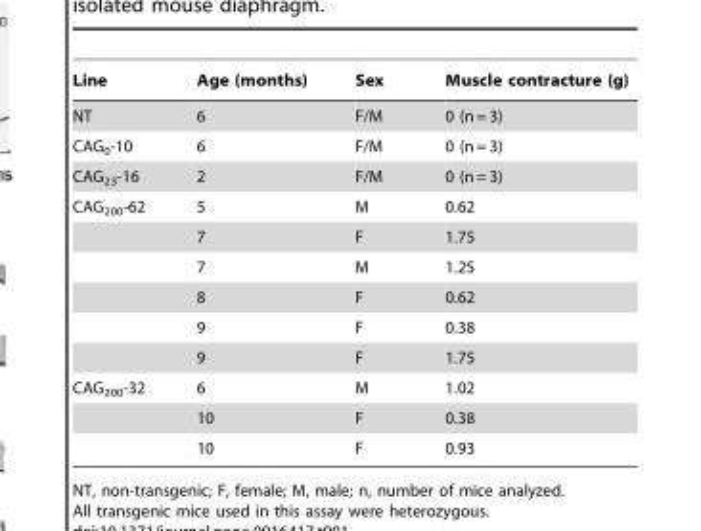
<table><thead><tr><td>Line</td><td>Age (months)</td><td>Sex</td><td>Muscle contracture (g)</td></tr></thead><tbody><tr><td>NT</td><td>6</td><td>F/M</td><td>0 (n = 3)</td></tr><tr><td>CAG<sub>0</sub>-10</td><td>6</td><td>F/M</td><td>0 (n = 3)</td></tr><tr><td>CAG<sub>23</sub>-16</td><td>2</td><td>F/M</td><td>0 (n = 3)</td></tr><tr><td rowspan="6">CAG<sub>200</sub>-62</td><td>5</td><td>M</td><td>0.62</td></tr><tr><td>7</td><td>F</td><td>1.75</td></tr><tr><td>7</td><td>M</td><td>1.25</td></tr><tr><td>8</td><td>F</td><td>0.62</td></tr><tr><td>9</td><td>F</td><td>0.38</td></tr><tr><td>9</td><td>F</td><td>1.75</td></tr><tr><td rowspan="3">CAG<sub>200</sub>-32</td><td>6</td><td>M</td><td>1.02</td></tr><tr><td>10</td><td>F</td><td>0.38</td></tr><tr><td>10</td><td>F</td><td>0.93</td></tr></tbody></table>